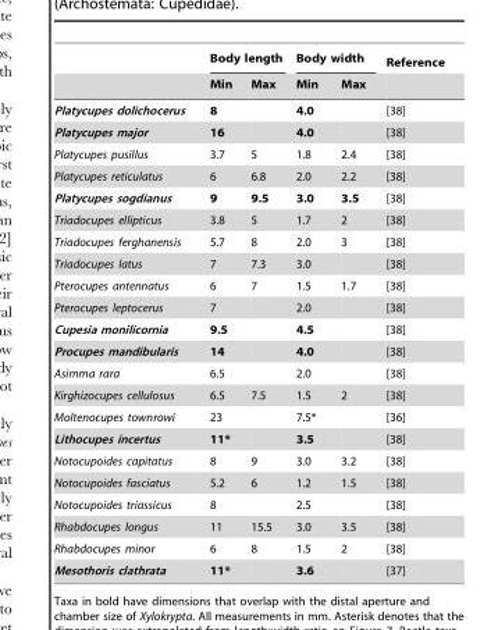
<table><thead><tr><td rowspan="2"></td><td colspan="2">Body length</td><td colspan="2">Body width</td><td rowspan="2">Reference</td></tr><tr><td>Min</td><td>Max</td><td>Min</td><td>Max</td></tr></thead><tbody><tr><td>Platycupes dolichocerus</td><td>8</td><td></td><td>4.0</td><td></td><td>[38]</td></tr><tr><td>Platycupes major</td><td>16</td><td></td><td>4.0</td><td></td><td>[38]</td></tr><tr><td>Platycupes pusillus</td><td>3.7</td><td>5</td><td>1.8</td><td>2.4</td><td>[38]</td></tr><tr><td>Platycupes reticulatus</td><td>6</td><td>6.8</td><td>2.0</td><td>2.2</td><td>[38]</td></tr><tr><td>Platycupes sogdianus</td><td>9</td><td>9.5</td><td>3.0</td><td>3.5</td><td>[38]</td></tr><tr><td>Triadocupes ellipticus</td><td>3.8</td><td>5</td><td>1.7</td><td>2</td><td>[38]</td></tr><tr><td>Triadocupes ferghanensis</td><td>5.7</td><td>8</td><td>2.0</td><td>3</td><td>[38]</td></tr><tr><td>Triadocupes latus</td><td>7</td><td>7.3</td><td>3.0</td><td></td><td>[38]</td></tr><tr><td>Pterocupes antennatus</td><td>6</td><td>7</td><td>1.5</td><td>1.7</td><td>[38]</td></tr><tr><td>Pterocupes leptocerus</td><td>7</td><td></td><td>2.0</td><td></td><td>[38]</td></tr><tr><td>Cupesia monilicornia</td><td>9.5</td><td></td><td>4.5</td><td></td><td>[38]</td></tr><tr><td>Procupes mandibularis</td><td>14</td><td></td><td>4.0</td><td></td><td>[38]</td></tr><tr><td>Asimma rara</td><td>6.5</td><td></td><td>2.0</td><td></td><td>[38]</td></tr><tr><td>Kirghizocupes cellulosus</td><td>6.5</td><td>7.5</td><td>1.5</td><td>2</td><td>[38]</td></tr><tr><td>Moltenocupes townrowi</td><td>23</td><td></td><td>7.5*</td><td></td><td>[36]</td></tr><tr><td>Lithocupes incertus</td><td>11*</td><td></td><td>3.5</td><td></td><td>[38]</td></tr><tr><td>Notocupoides capitatus</td><td>8</td><td>9</td><td>3.0</td><td>3.2</td><td>[38]</td></tr><tr><td>Notocupoides fasciatus</td><td>5.2</td><td>6</td><td>1.2</td><td>1.5</td><td>[38]</td></tr><tr><td>Notocupoides triassicus</td><td>8</td><td></td><td>2.5</td><td></td><td>[38]</td></tr><tr><td>Rhabdocupes longus</td><td>11</td><td>15.5</td><td>3.0</td><td>3.5</td><td>[38]</td></tr><tr><td>Rhabdocupes minor</td><td>6</td><td>8</td><td>1.5</td><td>2</td><td>[38]</td></tr><tr><td>Mesothoris clathrata</td><td>11*</td><td></td><td>3.6</td><td></td><td>[37]</td></tr></tbody></table>